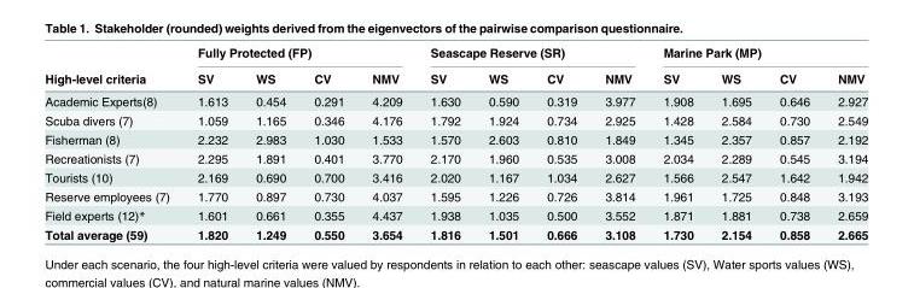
<table><thead><tr><td rowspan="2">High-level criteria</td><td colspan="4">Fully Protected (FP)</td><td colspan="4">Seascape Reserve (SR)</td><td colspan="4">Marine Park (MP)</td></tr><tr><td>SV</td><td>WS</td><td>CV</td><td>NMV</td><td>SV</td><td>WS</td><td>CV</td><td>NMV</td><td>SV</td><td>WS</td><td>CV</td><td>NMV</td></tr></thead><tbody><tr><td>Academic Experts(8)</td><td>1.613</td><td>0.454</td><td>0.291</td><td>4.209</td><td>1.630</td><td>0.590</td><td>0.319</td><td>3.977</td><td>1.908</td><td>1.695</td><td>0.646</td><td>2.927</td></tr><tr><td>Scuba divers (7)</td><td>1.059</td><td>1.165</td><td>0.346</td><td>4.176</td><td>1.792</td><td>1.924</td><td>0.734</td><td>2.925</td><td>1.428</td><td>2.584</td><td>0.730</td><td>2.549</td></tr><tr><td>Fisherman (8)</td><td>2.232</td><td>2.983</td><td>1.030</td><td>1.533</td><td>1.570</td><td>2.603</td><td>0.810</td><td>1.849</td><td>1.345</td><td>2.357</td><td>0.857</td><td>2.192</td></tr><tr><td>Recreationists (7)</td><td>2.295</td><td>1.891</td><td>0.401</td><td>3.770</td><td>2.170</td><td>1.960</td><td>0.535</td><td>3.008</td><td>2.034</td><td>2.289</td><td>0.545</td><td>3.194</td></tr><tr><td>Tourists (10)</td><td>2.169</td><td>0.690</td><td>0.700</td><td>3.416</td><td>2.020</td><td>1.167</td><td>1.034</td><td>2.627</td><td>1.566</td><td>2.547</td><td>1.642</td><td>1.942</td></tr><tr><td>Reserve employees (7)</td><td>1.770</td><td>0.897</td><td>0.730</td><td>4.037</td><td>1.595</td><td>1.226</td><td>0.726</td><td>3.814</td><td>1.961</td><td>1.725</td><td>0.848</td><td>3.193</td></tr><tr><td>Field experts (12)*</td><td>1.601</td><td>0.661</td><td>0.355</td><td>4.437</td><td>1.938</td><td>1.035</td><td>0.500</td><td>3.552</td><td>1.871</td><td>1.881</td><td>0.738</td><td>2.659</td></tr><tr><td>Total average (59)</td><td>1.820</td><td>1.249</td><td>0.550</td><td>3.654</td><td>1.816</td><td>1.501</td><td>0.666</td><td>3.108</td><td>1.730</td><td>2.154</td><td>0.858</td><td>2.665</td></tr></tbody></table>